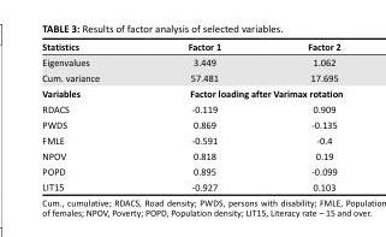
<table><thead><tr><td>Statistics</td><td>Factor 1</td><td>Factor 2</td></tr></thead><tbody><tr><td>Eigenvalues</td><td>3.449</td><td>1.062</td></tr><tr><td>Cum. variance</td><td>57.481</td><td>17.695</td></tr><tr><td>Variables</td><td colspan="2">Factor loading after Varimax rotation</td></tr><tr><td>RDACS</td><td>-0.119</td><td>0.909</td></tr><tr><td>PWDS</td><td>0.869</td><td>-0.135</td></tr><tr><td>FMLE</td><td>-0.591</td><td>-0.4</td></tr><tr><td>NPOV</td><td>0.818</td><td>0.19</td></tr><tr><td>POPD</td><td>0.895</td><td>-0.099</td></tr><tr><td>LIT15</td><td>-0.927</td><td>0.103</td></tr></tbody></table>